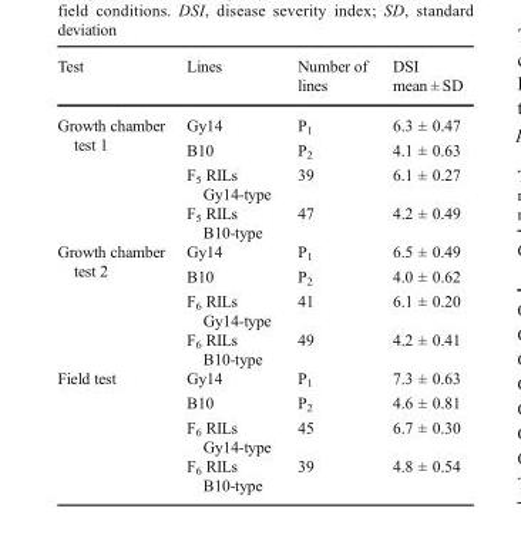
<table><thead><tr><td>Test</td><td>Lines</td><td>Number of lines</td><td>DSI mean ± SD</td></tr></thead><tbody><tr><td rowspan="4">Growth chamber test 1</td><td>Gy14</td><td>P<sub>1</sub></td><td>6.3 ± 0.47</td></tr><tr><td>B10</td><td>P<sub>2</sub></td><td>4.1 ± 0.63</td></tr><tr><td>F<sub>5</sub> RILs Gy14-type</td><td>39</td><td>6.1 ± 0.27</td></tr><tr><td>F<sub>5</sub> RILs B10-type</td><td>47</td><td>4.2 ± 0.49</td></tr><tr><td rowspan="4">Growth chamber test 2</td><td>Gy14</td><td>P<sub>1</sub></td><td>6.5 ± 0.49</td></tr><tr><td>B10</td><td>P<sub>2</sub></td><td>4.0 ± 0.62</td></tr><tr><td>F<sub>6</sub> RILs Gy14-type</td><td>41</td><td>6.1 ± 0.20</td></tr><tr><td>F<sub>6</sub> RILs B10-type</td><td>49</td><td>4.2 ± 0.41</td></tr><tr><td rowspan="4">Field test</td><td>Gy14</td><td>P<sub>1</sub></td><td>7.3 ± 0.63</td></tr><tr><td>B10</td><td>P<sub>2</sub></td><td>4.6 ± 0.81</td></tr><tr><td>F<sub>6</sub> RILs Gy14-type</td><td>45</td><td>6.7 ± 0.30</td></tr><tr><td>F<sub>6</sub> RILs B10-type</td><td>39</td><td>4.8 ± 0.54</td></tr></tbody></table>